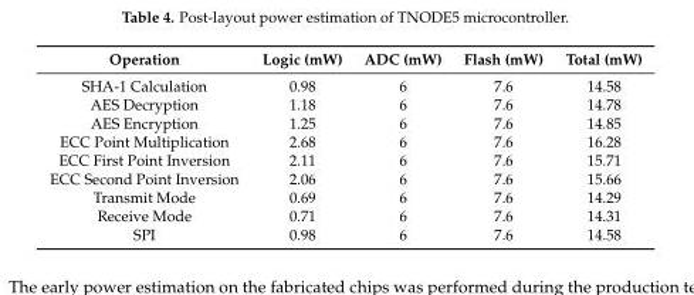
<table><thead><tr><td>Operation</td><td>Logic (mW)</td><td>ADC (mW)</td><td>Flash (mW)</td><td>Total (mW)</td></tr></thead><tbody><tr><td>SHA-1 Calculation</td><td>0.98</td><td>6</td><td>7.6</td><td>14.58</td></tr><tr><td>AES Decryption</td><td>1.18</td><td>6</td><td>7.6</td><td>14.78</td></tr><tr><td>AES Encryption</td><td>1.25</td><td>6</td><td>7.6</td><td>14.85</td></tr><tr><td>ECC Point Multiplication</td><td>2.68</td><td>6</td><td>7.6</td><td>16.28</td></tr><tr><td>ECC First Point Inversion</td><td>2.11</td><td>6</td><td>7.6</td><td>15.71</td></tr><tr><td>ECC Second Point Inversion</td><td>2.06</td><td>6</td><td>7.6</td><td>15.66</td></tr><tr><td>Transmit Mode</td><td>0.69</td><td>6</td><td>7.6</td><td>14.29</td></tr><tr><td>Receive Mode</td><td>0.71</td><td>6</td><td>7.6</td><td>14.31</td></tr><tr><td>SPI</td><td>0.98</td><td>6</td><td>7.6</td><td>14.58</td></tr></tbody></table>